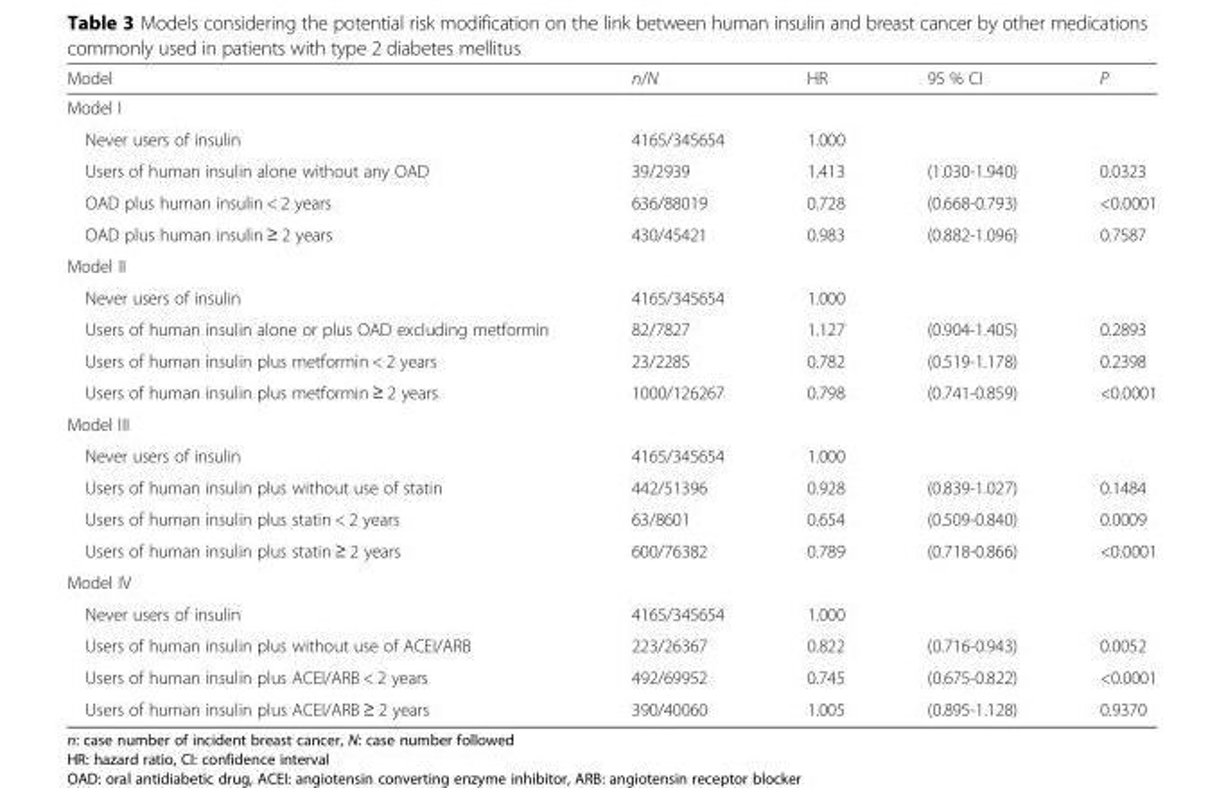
<table><thead><tr><td>Model</td><td>n/N</td><td>HR</td><td>95 % CI</td><td>P</td></tr></thead><tbody><tr><td colspan="5">Model I</td></tr><tr><td>Never users of insulin</td><td>4165/345654</td><td>1.000</td><td></td><td></td></tr><tr><td>Users of human insulin alone without any OAD</td><td>39/2939</td><td>1.413</td><td>(1.030-1.940)</td><td>0.0323</td></tr><tr><td>OAD plus human insulin &lt; 2 years</td><td>636/88019</td><td>0.728</td><td>(0.668-0.793)</td><td>&lt;0.0001</td></tr><tr><td>OAD plus human insulin ≥ 2 years</td><td>430/45421</td><td>0.983</td><td>(0.882-1.096)</td><td>0.7587</td></tr><tr><td colspan="5">Model II</td></tr><tr><td>Never users of insulin</td><td>4165/345654</td><td>1.000</td><td></td><td></td></tr><tr><td>Users of human insulin alone or plus OAD excluding metformin</td><td>82/7827</td><td>1.127</td><td>(0.904-1.405)</td><td>0.2893</td></tr><tr><td>Users of human insulin plus metformin &lt; 2 years</td><td>23/2285</td><td>0.782</td><td>(0.519-1.178)</td><td>0.2398</td></tr><tr><td>Users of human insulin plus metformin ≥ 2 years</td><td>1000/126267</td><td>0.798</td><td>(0.741-0.859)</td><td>&lt;0.0001</td></tr><tr><td colspan="5">Model III</td></tr><tr><td>Never users of insulin</td><td>4165/345654</td><td>1.000</td><td></td><td></td></tr><tr><td>Users of human insulin plus without use of statin</td><td>442/51396</td><td>0.928</td><td>(0.839-1.027)</td><td>0.1484</td></tr><tr><td>Users of human insulin plus statin &lt; 2 years</td><td>63/8601</td><td>0.654</td><td>(0.509-0.840)</td><td>0.0009</td></tr><tr><td>Users of human insulin plus statin ≥ 2 years</td><td>600/76382</td><td>0.789</td><td>(0.718-0.866)</td><td>&lt;0.0001</td></tr><tr><td colspan="5">Model IV</td></tr><tr><td>Never users of insulin</td><td>4165/345654</td><td>1.000</td><td></td><td></td></tr><tr><td>Users of human insulin plus without use of ACEI/ARB</td><td>223/26367</td><td>0.822</td><td>(0.716-0.943)</td><td>0.0052</td></tr><tr><td>Users of human insulin plus ACEI/ARB &lt; 2 years</td><td>492/69952</td><td>0.745</td><td>(0.675-0.822)</td><td>&lt;0.0001</td></tr><tr><td>Users of human insulin plus ACEI/ARB ≥ 2 years</td><td>390/40060</td><td>1.005</td><td>(0.895-1.128)</td><td>0.9370</td></tr></tbody></table>